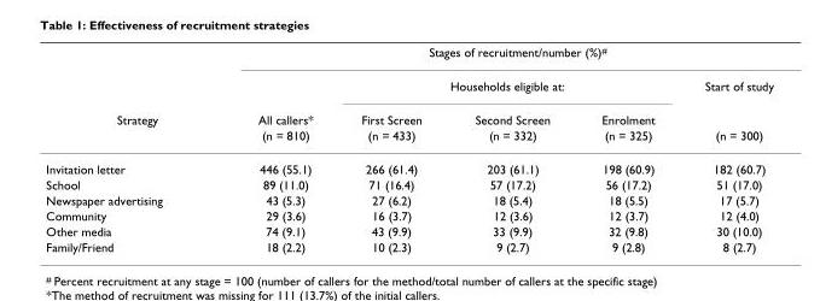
<table><thead><tr><td rowspan="4">Strategy</td><td colspan="5">Stages of recruitment/number (%)<sup>#</sup></td></tr><tr><td rowspan="3">All callers* (n = 810)</td><td colspan="3">Households eligible at:</td><td rowspan="3">Start of study (n = 300)</td></tr><tr><td rowspan="2">First Screen (n = 433)</td><td rowspan="2">Second Screen (n = 332)</td><td rowspan="2">Enrolment (n = 325)</td></tr><tr></tr></thead><tbody><tr><td>Invitation letter</td><td>446 (55.1)</td><td>266 (61.4)</td><td>203 (61.1)</td><td>198 (60.9)</td><td>182 (60.7)</td></tr><tr><td>School</td><td>89 (11.0)</td><td>71 (16.4)</td><td>57 (17.2)</td><td>56 (17.2)</td><td>51 (17.0)</td></tr><tr><td>Newspaper advertising</td><td>43 (5.3)</td><td>27 (6.2)</td><td>18 (5.4)</td><td>18 (5.5)</td><td>17 (5.7)</td></tr><tr><td>Community</td><td>29 (3.6)</td><td>16 (3.7)</td><td>12 (3.6)</td><td>12 (3.7)</td><td>12 (4.0)</td></tr><tr><td>Other media</td><td>74 (9.1)</td><td>43 (9.9)</td><td>33 (9.9)</td><td>32 (9.8)</td><td>30 (10.0)</td></tr><tr><td>Family/Friend</td><td>18 (2.2)</td><td>10 (2.3)</td><td>9 (2.7)</td><td>9 (2.8)</td><td>8 (2.7)</td></tr></tbody></table>